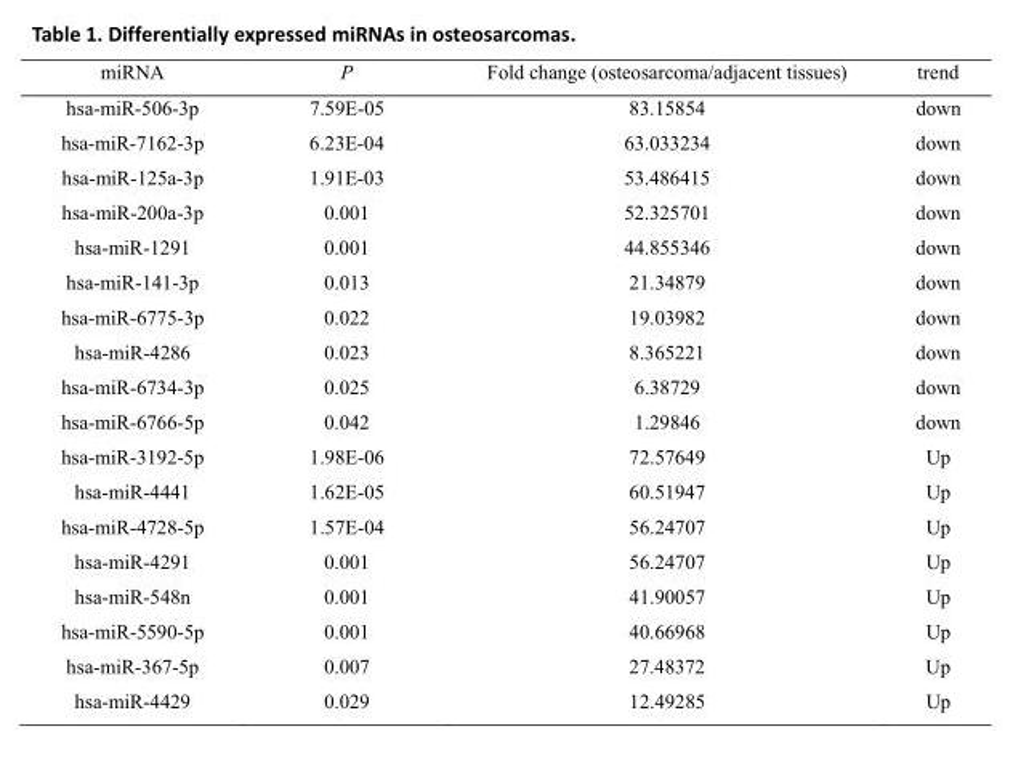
<table><tbody><tr><td>miRNA</td><td>P</td><td>Fold change (osteosarcoma/adjacent tissues)</td><td>trend</td></tr><tr><td>hsa-miR-506-3p</td><td>7.59E-05</td><td>83.15854</td><td>down</td></tr><tr><td>hsa-miR-7162-3p</td><td>6.23E-04</td><td>63.033234</td><td>down</td></tr><tr><td>hsa-miR-125a-3p</td><td>1.91E-03</td><td>53.486415</td><td>down</td></tr><tr><td>hsa-miR-200a-3p</td><td>0.001</td><td>52.325701</td><td>down</td></tr><tr><td>hsa-miR-1291</td><td>0.001</td><td>44.855346</td><td>down</td></tr><tr><td>hsa-miR-141-3p</td><td>0.013</td><td>21.34879</td><td>down</td></tr><tr><td>hsa-miR-6775-3p</td><td>0.022</td><td>19.03982</td><td>down</td></tr><tr><td>hsa-miR-4286</td><td>0.023</td><td>8.365221</td><td>down</td></tr><tr><td>hsa-miR-6734-3p</td><td>0.025</td><td>6.38729</td><td>down</td></tr><tr><td>hsa-miR-6766-5p</td><td>0.042</td><td>1.29846</td><td>down</td></tr><tr><td>hsa-miR-3192-5p</td><td>1.98E-06</td><td>72.57649</td><td>Up</td></tr><tr><td>hsa-miR-4441</td><td>1.62E-05</td><td>60.51947</td><td>Up</td></tr><tr><td>hsa-miR-4728-5p</td><td>1.57E-04</td><td>56.24707</td><td>Up</td></tr><tr><td>hsa-miR-4291</td><td>0.001</td><td>56.24707</td><td>Up</td></tr><tr><td>hsa-miR-548n</td><td>0.001</td><td>41.90057</td><td>Up</td></tr><tr><td>hsa-miR-5590-5p</td><td>0.001</td><td>40.66968</td><td>Up</td></tr><tr><td>hsa-miR-367-5p</td><td>0.007</td><td>27.48372</td><td>Up</td></tr><tr><td>hsa-miR-4429</td><td>0.029</td><td>12.49285</td><td>Up</td></tr></tbody></table>